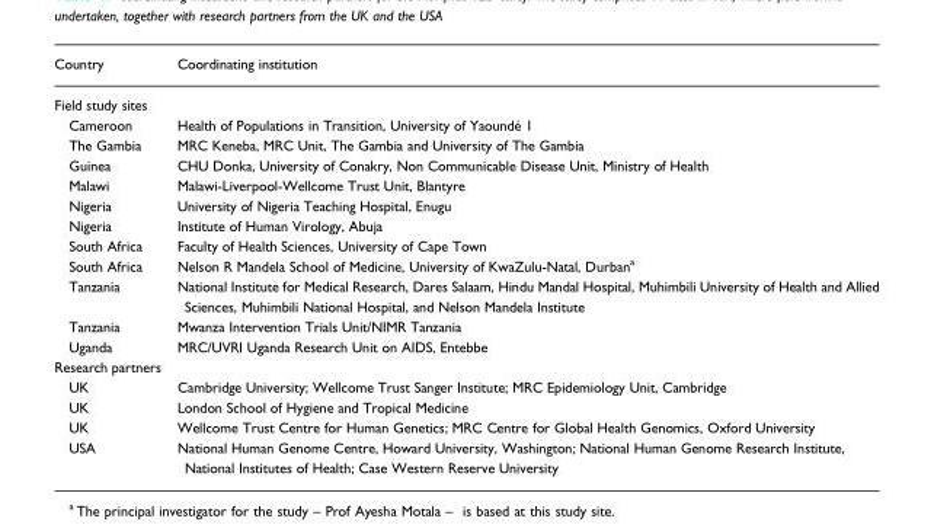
<table><thead><tr><td>Country</td><td>Coordinating institution</td></tr></thead><tbody><tr><td colspan="2">Field study sites</td></tr><tr><td>Cameroon</td><td>Health of Populations in Transition, University of Yaoundé 1</td></tr><tr><td>The Gambia</td><td>MRC Keneba, MRC Unit, The Gambia and University of The Gambia</td></tr><tr><td>Guinea</td><td>CHU Donka, University of Conakry, Non Communicable Disease Unit, Ministry of Health</td></tr><tr><td>Malawi</td><td>Malawi‐Liverpool-Wellcome Trust Unit, Blantyre</td></tr><tr><td>Nigeria</td><td>University of Nigeria Teaching Hospital, Enugu</td></tr><tr><td>Nigeria</td><td>Institute of Human Virology, Abuja</td></tr><tr><td>South Africa</td><td>Faculty of Health Sciences, University of Cape Town</td></tr><tr><td>South Africa</td><td>Nelson R Mandela School of Medicine, University of KwaZulu‐Natal, Durban<sup>a</sup></td></tr><tr><td>Tanzania</td><td>National Institute for Medical Research, Dares Salaam, Hindu Mandal Hospital, Muhimbili University of Health and Allied Sciences, Muhimbili National Hospital, and Nelson Mandela Institute</td></tr><tr><td>Tanzania</td><td>Mwanza Intervention Trials Unit/NIMR Tanzania</td></tr><tr><td>Uganda</td><td>MRC/UVRI Uganda Research Unit on AIDS, Entebbe</td></tr><tr><td colspan="2">Research partners</td></tr><tr><td>UK</td><td>Cambridge University; Wellcome Trust Sanger Institute; MRC Epidemiology Unit, Cambridge</td></tr><tr><td>UK</td><td>London School of Hygiene and Tropical Medicine</td></tr><tr><td>UK</td><td>Wellcome Trust Centre for Human Genetics; MRC Centre for Global Health Genomics, Oxford University</td></tr><tr><td>USA</td><td>National Human Genome Centre, Howard University, Washington; National Human Genome Research Institute, National Institutes of Health; Case Western Reserve University</td></tr></tbody></table>